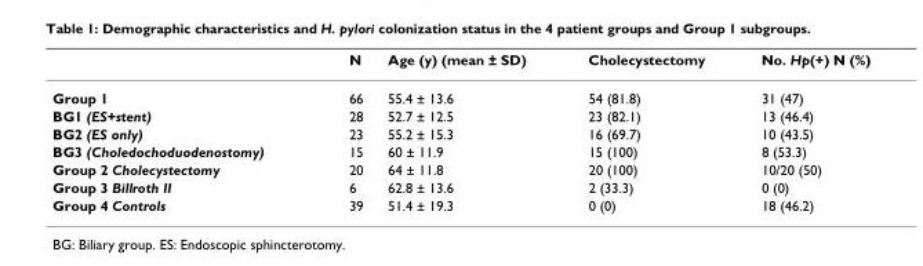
<table><thead><tr><td></td><td>N</td><td>Age (y) (mean ± SD)</td><td>Cholecystectomy</td><td>No. Hp(+) N (%)</td></tr></thead><tbody><tr><td>Group 1</td><td>66</td><td>55.4 ± 13.6</td><td>54 (81.8)</td><td>31 (47)</td></tr><tr><td>BG1 (ES+stent)</td><td>28</td><td>52.7 ± 12.5</td><td>23 (82.1)</td><td>13 (46.4)</td></tr><tr><td>BG2 (ES only)</td><td>23</td><td>55.2 ± 15.3</td><td>16 (69.7)</td><td>10 (43.5)</td></tr><tr><td>BG3 (Choledochoduodenostomy)</td><td>15</td><td>60 ± 11.9</td><td>15 (100)</td><td>8 (53.3)</td></tr><tr><td>Group 2 Cholecystectomy</td><td>20</td><td>64 ± 11.8</td><td>20 (100)</td><td>10/20 (50)</td></tr><tr><td>Group 3 Billroth II</td><td>6</td><td>62.8 ± 13.6</td><td>2 (33.3)</td><td>0 (0)</td></tr><tr><td>Group 4 Controls</td><td>39</td><td>51.4 ± 19.3</td><td>0 (0)</td><td>18 (46.2)</td></tr></tbody></table>